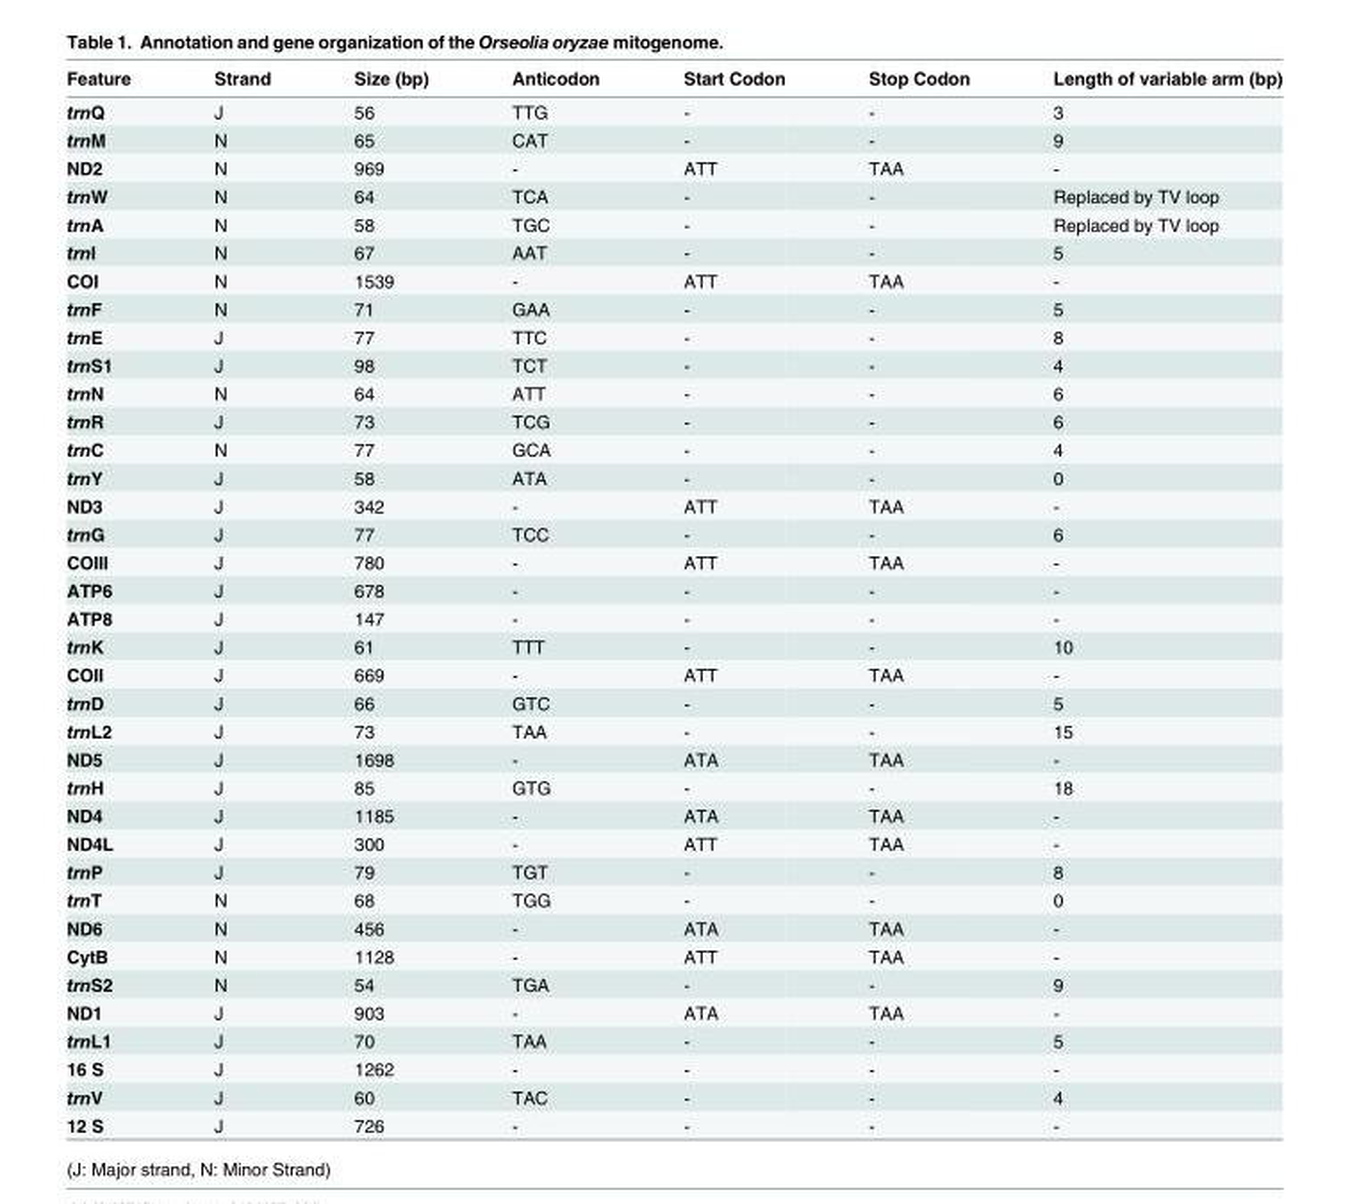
<table><thead><tr><td>Feature</td><td>Strand</td><td>Size (bp)</td><td>Anticodon</td><td>Start Codon</td><td>Stop Codon</td><td>Length of variable arm (bp)</td></tr></thead><tbody><tr><td>trnQ</td><td>J</td><td>56</td><td>TTG</td><td>-</td><td>-</td><td>3</td></tr><tr><td>trnM</td><td>N</td><td>65</td><td>CAT</td><td>-</td><td>-</td><td>9</td></tr><tr><td>ND2</td><td>N</td><td>969</td><td>-</td><td>ATT</td><td>TAA</td><td>-</td></tr><tr><td>trnW</td><td>N</td><td>64</td><td>TCA</td><td>-</td><td>-</td><td>Replaced by TV loop</td></tr><tr><td>trnA</td><td>N</td><td>58</td><td>TGC</td><td>-</td><td>-</td><td>Replaced by TV loop</td></tr><tr><td>trnI</td><td>N</td><td>67</td><td>AAT</td><td>-</td><td>-</td><td>5</td></tr><tr><td>COI</td><td>N</td><td>1539</td><td>-</td><td>ATT</td><td>TAA</td><td>-</td></tr><tr><td>trnF</td><td>N</td><td>71</td><td>GAA</td><td>-</td><td>-</td><td>5</td></tr><tr><td>trnE</td><td>J</td><td>77</td><td>TTC</td><td>-</td><td>-</td><td>8</td></tr><tr><td>trnS1</td><td>J</td><td>98</td><td>TCT</td><td>-</td><td>-</td><td>4</td></tr><tr><td>trnN</td><td>N</td><td>64</td><td>ATT</td><td>-</td><td>-</td><td>6</td></tr><tr><td>trnR</td><td>J</td><td>73</td><td>TCG</td><td>-</td><td>-</td><td>6</td></tr><tr><td>trnC</td><td>N</td><td>77</td><td>GCA</td><td>-</td><td>-</td><td>4</td></tr><tr><td>trnY</td><td>J</td><td>58</td><td>ATA</td><td>-</td><td>-</td><td>0</td></tr><tr><td>ND3</td><td>J</td><td>342</td><td>-</td><td>ATT</td><td>TAA</td><td>-</td></tr><tr><td>trnG</td><td>J</td><td>77</td><td>TCC</td><td>-</td><td>-</td><td>6</td></tr><tr><td>COIII</td><td>J</td><td>780</td><td>-</td><td>ATT</td><td>TAA</td><td>-</td></tr><tr><td>ATP6</td><td>J</td><td>678</td><td>-</td><td>-</td><td>-</td><td>-</td></tr><tr><td>ATP8</td><td>J</td><td>147</td><td>-</td><td>-</td><td>-</td><td>-</td></tr><tr><td>trnK</td><td>J</td><td>61</td><td>TTT</td><td>-</td><td>-</td><td>10</td></tr><tr><td>COII</td><td>J</td><td>669</td><td>-</td><td>ATT</td><td>TAA</td><td>-</td></tr><tr><td>trnD</td><td>J</td><td>66</td><td>GTC</td><td>-</td><td>-</td><td>5</td></tr><tr><td>trnL2</td><td>J</td><td>73</td><td>TAA</td><td>-</td><td>-</td><td>15</td></tr><tr><td>ND5</td><td>J</td><td>1698</td><td>-</td><td>ATA</td><td>TAA</td><td>-</td></tr><tr><td>trnH</td><td>J</td><td>85</td><td>GTG</td><td>-</td><td>-</td><td>18</td></tr><tr><td>ND4</td><td>J</td><td>1185</td><td>-</td><td>ATA</td><td>TAA</td><td>-</td></tr><tr><td>ND4L</td><td>J</td><td>300</td><td>-</td><td>ATT</td><td>TAA</td><td>-</td></tr><tr><td>trnP</td><td>J</td><td>79</td><td>TGT</td><td>-</td><td>-</td><td>8</td></tr><tr><td>trnT</td><td>N</td><td>68</td><td>TGG</td><td>-</td><td>-</td><td>0</td></tr><tr><td>ND6</td><td>N</td><td>456</td><td>-</td><td>ATA</td><td>TAA</td><td>-</td></tr><tr><td>CytB</td><td>N</td><td>1128</td><td>-</td><td>ATT</td><td>TAA</td><td>-</td></tr><tr><td>trnS2</td><td>N</td><td>54</td><td>TGA</td><td>-</td><td>-</td><td>9</td></tr><tr><td>ND1</td><td>J</td><td>903</td><td>-</td><td>ATA</td><td>TAA</td><td>-</td></tr><tr><td>trnL1</td><td>J</td><td>70</td><td>TAA</td><td>-</td><td>-</td><td>5</td></tr><tr><td>16 S</td><td>J</td><td>1262</td><td>-</td><td>-</td><td>-</td><td>-</td></tr><tr><td>trnV</td><td>J</td><td>60</td><td>TAC</td><td>-</td><td>-</td><td>4</td></tr><tr><td>12 S</td><td>J</td><td>726</td><td>-</td><td>-</td><td>-</td><td>-</td></tr></tbody></table>